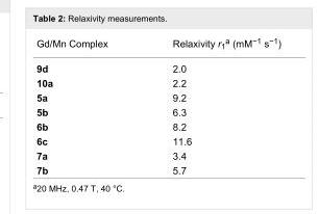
<table><tbody><tr><td>Gd/Mn Complex</td><td>Relaxivity r<sub>1</sub><sup>a</sup> (mM<sup>−1</sup> s<sup>−1</sup>)</td></tr><tr><td>9d</td><td>2.0</td></tr><tr><td>10a</td><td>2.2</td></tr><tr><td>5a</td><td>9.2</td></tr><tr><td>5b</td><td>6.3</td></tr><tr><td>6b</td><td>8.2</td></tr><tr><td>6c</td><td>11.6</td></tr><tr><td>7a</td><td>3.4</td></tr><tr><td>7b</td><td>5.7</td></tr></tbody></table>